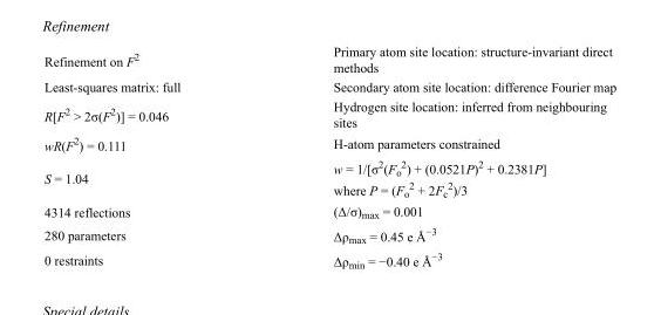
<table><tbody><tr><td>Refinement on F<sup>2</sup></td><td>Primary atom site location: structure-invariant direct methods</td></tr><tr><td>Least-squares matrix: full</td><td>Secondary atom site location: difference Fourier map</td></tr><tr><td>R[F<sup>2</sup> &gt; 2σ(F<sup>2</sup>)] = 0.046</td><td>Hydrogen site location: inferred from neighbouring sites</td></tr><tr><td>wR(F<sup>2</sup>) = 0.111</td><td>H-atom parameters constrained</td></tr><tr><td>S = 1.04</td><td>w = 1/[σ<sup>2</sup>(F<sub>o</sub> <sup>2</sup>) + (0.0521P)<sup>2</sup> + 0.2381P] where P = (F<sub>o</sub> <sup>2</sup> + 2F<sub>c</sub> <sup>2</sup>)/3</td></tr><tr><td>4314 reflections</td><td>(Δ/σ)<sub>max</sub> = 0.001</td></tr><tr><td>280 parameters</td><td>Δρ<sub>max</sub> = 0.45 e Å<sup>−3</sup></td></tr><tr><td>0 restraints</td><td>Δρ<sub>min</sub> = −0.40 e Å<sup>−3</sup></td></tr></tbody></table>